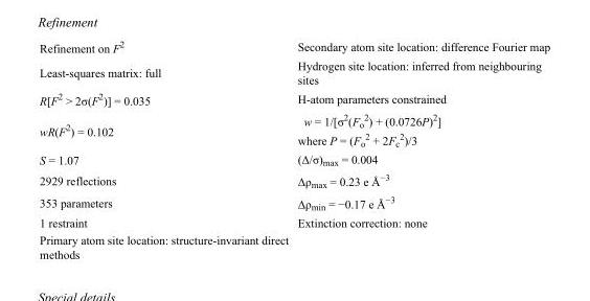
<table><tbody><tr><td>Refinement on F<sup>2</sup></td><td>Secondary atom site location: difference Fourier map</td></tr><tr><td>Least-squares matrix: full</td><td>Hydrogen site location: inferred from neighbouring sites</td></tr><tr><td>R[F<sup>2</sup> &gt; 2σ(F<sup>2</sup>)] = 0.035</td><td>H-atom parameters constrained</td></tr><tr><td>wR(F<sup>2</sup>) = 0.102</td><td>w = 1/[σ<sup>2</sup>(F<sub>o</sub> <sup>2</sup>) + (0.0726P)<sup>2</sup>] where P = (F<sub>o</sub> <sup>2</sup> + 2F<sub>c</sub> <sup>2</sup>)/3</td></tr><tr><td>S = 1.07</td><td>(Δ/σ)<sub>max</sub> = 0.004</td></tr><tr><td>2929 reflections</td><td>Δρ<sub>max</sub> = 0.23 e Å<sup>−3</sup></td></tr><tr><td>353 parameters</td><td>Δρ<sub>min</sub> = −0.17 e Å<sup>−3</sup></td></tr><tr><td>1 restraint</td><td>Extinction correction: none</td></tr><tr><td>Primary atom site location: structure-invariant direct methods</td><td></td></tr></tbody></table>